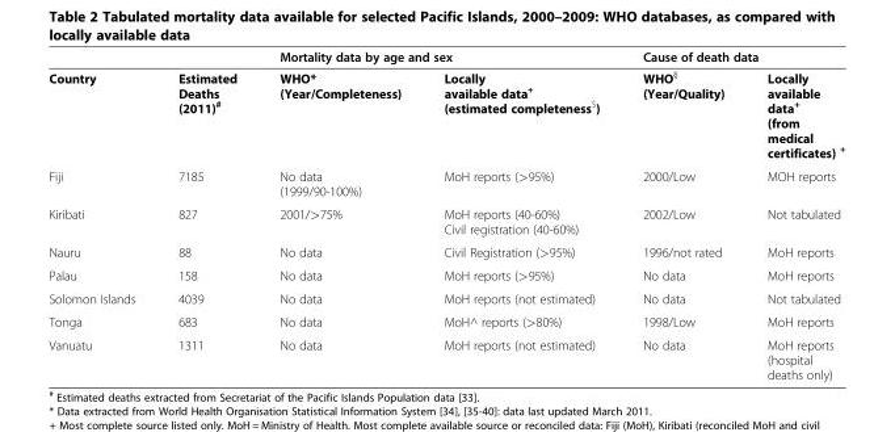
<table><thead><tr><td rowspan="2">Country</td><td rowspan="2">Estimated Deaths (2011)<sup>#</sup></td><td colspan="2">Mortality data by age and sex</td><td colspan="2">Cause of death data</td></tr><tr><td>WHO* (Year/Completeness)</td><td>Locally available data<sup>+</sup> (estimated completeness<sup>$</sup>)</td><td>WHO<sup>§</sup> (Year/Quality)</td><td>Locally available data<sup>+</sup> (from medical certificates) <sup>+</sup></td></tr></thead><tbody><tr><td>Fiji</td><td>7185</td><td>No data (1999/90-100%)</td><td>MoH reports (&gt;95%)</td><td>2000/Low</td><td>MOH reports</td></tr><tr><td>Kiribati</td><td>827</td><td>2001/&gt;75%</td><td>MoH reports (40-60%) Civil registration (40-60%)</td><td>2002/Low</td><td>Not tabulated</td></tr><tr><td>Nauru</td><td>88</td><td>No data</td><td>Civil Registration (&gt;95%)</td><td>1996/not rated</td><td>MoH reports</td></tr><tr><td>Palau</td><td>158</td><td>No data</td><td>MoH reports (&gt;95%)</td><td>No data</td><td>MoH reports</td></tr><tr><td>Solomon Islands</td><td>4039</td><td>No data</td><td>MoH reports (not estimated)</td><td>No data</td><td>Not tabulated</td></tr><tr><td>Tonga</td><td>683</td><td>No data</td><td>MoH^ reports (&gt;80%)</td><td>1998/Low</td><td>MoH reports</td></tr><tr><td>Vanuatu</td><td>1311</td><td>No data</td><td>MoH reports (not estimated)</td><td>No data</td><td>MoH reports (hospital deaths only)</td></tr></tbody></table>